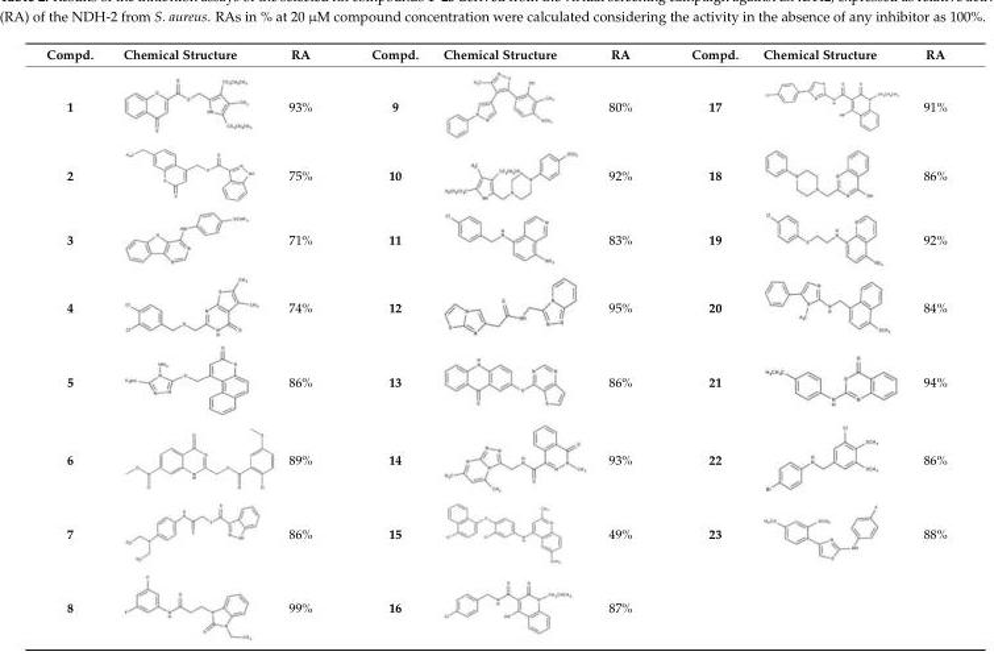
<table><thead><tr><td>Compd.</td><td>Chemical Structure</td><td>RA</td><td>Compd.</td><td>Chemical Structure</td><td>RA</td><td>Compd.</td><td>Chemical Structure</td><td>RA</td></tr></thead><tbody><tr><td>1</td><td></td><td>93%</td><td>9</td><td></td><td>80%</td><td>17</td><td></td><td>91%</td></tr><tr><td>2</td><td></td><td>75%</td><td>10</td><td></td><td>92%</td><td>18</td><td></td><td>86%</td></tr><tr><td>3</td><td></td><td>71%</td><td>11</td><td></td><td>83%</td><td>19</td><td></td><td>92%</td></tr><tr><td>4</td><td></td><td>74%</td><td>12</td><td></td><td>95%</td><td>20</td><td></td><td>84%</td></tr><tr><td>5</td><td></td><td>86%</td><td>13</td><td></td><td>86%</td><td>21</td><td></td><td>94%</td></tr><tr><td>6</td><td></td><td>89%</td><td>14</td><td></td><td>93%</td><td>22</td><td></td><td>86%</td></tr><tr><td>7</td><td></td><td>86%</td><td>15</td><td></td><td>49%</td><td>23</td><td></td><td>88%</td></tr><tr><td>8</td><td></td><td>99%</td><td>16</td><td></td><td>87%</td><td></td><td></td><td></td></tr></tbody></table>